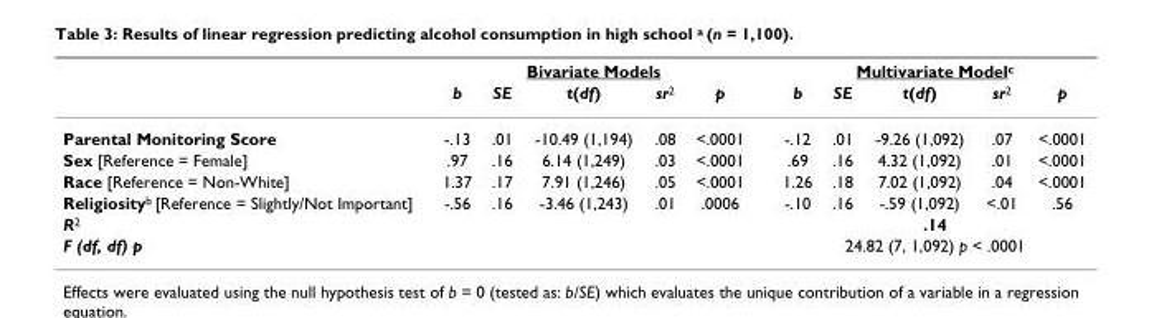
<table><thead><tr><td rowspan="2"></td><td colspan="5">Bivariate Models</td><td colspan="5">Multivariate Model<sup>c</sup></td></tr><tr><td>b</td><td>SE</td><td>t(df)</td><td>sr<sup>2</sup></td><td>p</td><td>b</td><td>SE</td><td>t(df)</td><td>sr<sup>2</sup></td><td>p</td></tr></thead><tbody><tr><td>Parental Monitoring Score</td><td>-.13</td><td>.01</td><td>-10.49 (1,194)</td><td>.08</td><td>&lt;.0001</td><td>-.12</td><td>.01</td><td>-9.26 (1,092)</td><td>.07</td><td>&lt;.0001</td></tr><tr><td>Sex [Reference = Female]</td><td>.97</td><td>.16</td><td>6.14 (1,249)</td><td>.03</td><td>&lt;.0001</td><td>.69</td><td>.16</td><td>4.32 (1,092)</td><td>.01</td><td>&lt;.0001</td></tr><tr><td>Race [Reference = Non-White]</td><td>1.37</td><td>.17</td><td>7.91 (1,246)</td><td>.05</td><td>&lt;.0001</td><td>1.26</td><td>.18</td><td>7.02 (1,092)</td><td>.04</td><td>&lt;.0001</td></tr><tr><td>Religiosity<sup>b</sup> [Reference = Slightly/Not Important]</td><td>-.56</td><td>.16</td><td>-3.46 (1,243)</td><td>.01</td><td>.0006</td><td>-.10</td><td>.16</td><td>-.59 (1,092)</td><td>&lt;.01</td><td>.56</td></tr><tr><td>R<sup>2</sup></td><td></td><td></td><td></td><td></td><td></td><td colspan="5">.14</td></tr><tr><td>F (df, df) p</td><td></td><td></td><td></td><td></td><td></td><td colspan="5">24.82 (7, 1,092) p &lt; .0001</td></tr></tbody></table>